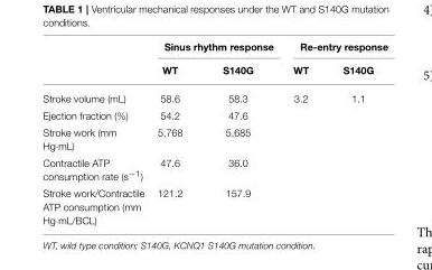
<table><thead><tr><td rowspan="2"></td><td colspan="2">Sinus rhythm response</td><td colspan="2">Re-entry response</td></tr><tr><td>WT</td><td>S140G</td><td>WT</td><td>S140G</td></tr></thead><tbody><tr><td>Stroke volume (mL)</td><td>58.6</td><td>58.3</td><td>3.2</td><td>1.1</td></tr><tr><td>Ejection fraction (%)</td><td>54.2</td><td>47.6</td><td></td><td></td></tr><tr><td>Stroke work (mm Hg·mL)</td><td>5,768</td><td>5,685</td><td></td><td></td></tr><tr><td>Contractile ATP consumption rate (s<sup>−1</sup>)</td><td>47.6</td><td>36.0</td><td></td><td></td></tr><tr><td>Stroke work/Contractile ATP consumption (mm Hg·mL/BCL)</td><td>121.2</td><td>157.9</td><td></td><td></td></tr></tbody></table>